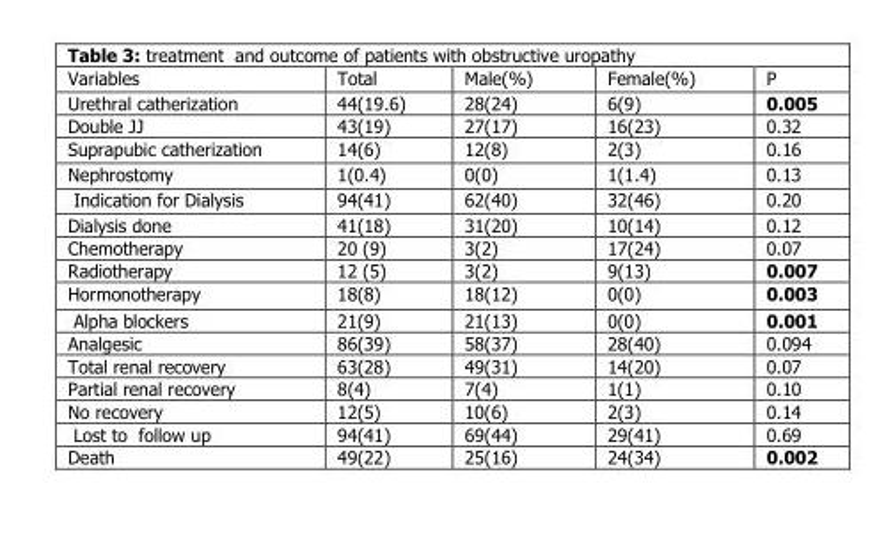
<table><thead><tr><td>Variables</td><td>Total</td><td>Male(%)</td><td>Female(%)</td><td>P</td></tr></thead><tbody><tr><td>Urethral catherization</td><td>44(19.6)</td><td>28(24)</td><td>6(9)</td><td>0.005</td></tr><tr><td>Double JJ</td><td>43(19)</td><td>27(17)</td><td>16(23)</td><td>0.32</td></tr><tr><td>Suprapubic catherization</td><td>14(6)</td><td>12(8)</td><td>2(3)</td><td>0.16</td></tr><tr><td>Nephrostomy</td><td>1(0.4)</td><td>0(0)</td><td>1(1.4)</td><td>0.13</td></tr><tr><td>Indication for Dialysis</td><td>94(41)</td><td>62(40)</td><td>32(46)</td><td>0.20</td></tr><tr><td>Dialysis done</td><td>41(18)</td><td>31(20)</td><td>10(14)</td><td>0.12</td></tr><tr><td>Chemotherapy</td><td>20 (9)</td><td>3(2)</td><td>17(24)</td><td>0.07</td></tr><tr><td>Radiotherapy</td><td>12 (5)</td><td>3(2)</td><td>9(13)</td><td>0.007</td></tr><tr><td>Hormonotherapy</td><td>18(8)</td><td>18(12)</td><td>0(0)</td><td>0.003</td></tr><tr><td>Alpha blockers</td><td>21(9)</td><td>21(13)</td><td>0(0)</td><td>0.001</td></tr><tr><td>Analgesic</td><td>86(39)</td><td>58(37)</td><td>28(40)</td><td>0.094</td></tr><tr><td>Total renal recovery</td><td>63(28)</td><td>49(31)</td><td>14(20)</td><td>0.07</td></tr><tr><td>Partial renal recovery</td><td>8(4)</td><td>7(4)</td><td>1(1)</td><td>0.10</td></tr><tr><td>No recovery</td><td>12(5)</td><td>10(6)</td><td>2(3)</td><td>0.14</td></tr><tr><td>Lost to follow up</td><td>94(41)</td><td>69(44)</td><td>29(41)</td><td>0.69</td></tr><tr><td>Death</td><td>49(22)</td><td>25(16)</td><td>24(34)</td><td>0.002</td></tr></tbody></table>